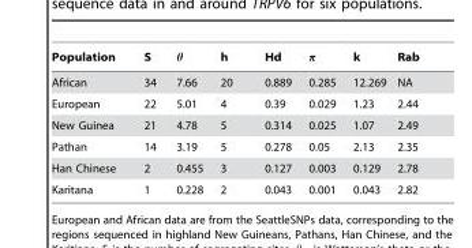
<table><thead><tr><td>Population</td><td>S</td><td>θ</td><td>h</td><td>Hd</td><td>π</td><td>k</td><td>Rab</td></tr></thead><tbody><tr><td>African</td><td>34</td><td>7.66</td><td>20</td><td>0.889</td><td>0.285</td><td>12.269</td><td>NA</td></tr><tr><td>European</td><td>22</td><td>5.01</td><td>4</td><td>0.39</td><td>0.029</td><td>1.23</td><td>2.44</td></tr><tr><td>New Guinea</td><td>21</td><td>4.78</td><td>5</td><td>0.314</td><td>0.025</td><td>1.07</td><td>2.49</td></tr><tr><td>Pathan</td><td>14</td><td>3.19</td><td>5</td><td>0.278</td><td>0.05</td><td>2.13</td><td>2.35</td></tr><tr><td>Han Chinese</td><td>2</td><td>0.455</td><td>3</td><td>0.127</td><td>0.003</td><td>0.129</td><td>2.78</td></tr><tr><td>Karitana</td><td>1</td><td>0.228</td><td>2</td><td>0.043</td><td>0.001</td><td>0.043</td><td>2.82</td></tr></tbody></table>